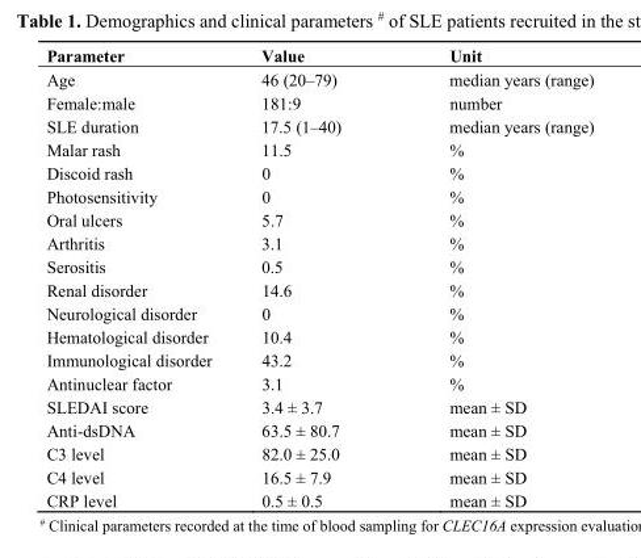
<table><thead><tr><td>Parameter</td><td>Value</td><td>Unit</td></tr></thead><tbody><tr><td>Age</td><td>46 (20–79)</td><td>median years (range)</td></tr><tr><td>Female:male</td><td>181:9</td><td>number</td></tr><tr><td>SLE duration</td><td>17.5 (1–40)</td><td>median years (range)</td></tr><tr><td>Malar rash</td><td>11.5</td><td>%</td></tr><tr><td>Discoid rash</td><td>0</td><td>%</td></tr><tr><td>Photosensitivity</td><td>0</td><td>%</td></tr><tr><td>Oral ulcers</td><td>5.7</td><td>%</td></tr><tr><td>Arthritis</td><td>3.1</td><td>%</td></tr><tr><td>Serositis</td><td>0.5</td><td>%</td></tr><tr><td>Renal disorder</td><td>14.6</td><td>%</td></tr><tr><td>Neurological disorder</td><td>0</td><td>%</td></tr><tr><td>Hematological disorder</td><td>10.4</td><td>%</td></tr><tr><td>Immunological disorder</td><td>43.2</td><td>%</td></tr><tr><td>Antinuclear factor</td><td>3.1</td><td>%</td></tr><tr><td>SLEDAI score</td><td>3.4 ± 3.7</td><td>mean ± SD</td></tr><tr><td>Anti-dsDNA</td><td>63.5 ± 80.7</td><td>mean ± SD</td></tr><tr><td>C3 level</td><td>82.0 ± 25.0</td><td>mean ± SD</td></tr><tr><td>C4 level</td><td>16.5 ± 7.9</td><td>mean ± SD</td></tr><tr><td>CRP level</td><td>0.5 ± 0.5</td><td>mean ± SD</td></tr></tbody></table>